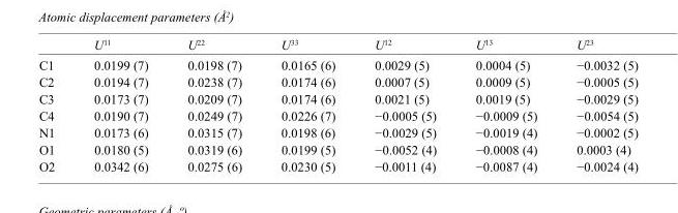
<table><thead><tr><td></td><td>U<sup>11</sup></td><td>U<sup>22</sup></td><td>U<sup>33</sup></td><td>U<sup>12</sup></td><td>U<sup>13</sup></td><td>U<sup>23</sup></td></tr></thead><tbody><tr><td>C1</td><td>0.0199 (7)</td><td>0.0198 (7)</td><td>0.0165 (6)</td><td>0.0029 (5)</td><td>0.0004 (5)</td><td>−0.0032 (5)</td></tr><tr><td>C2</td><td>0.0194 (7)</td><td>0.0238 (7)</td><td>0.0174 (6)</td><td>0.0007 (5)</td><td>0.0009 (5)</td><td>−0.0005 (5)</td></tr><tr><td>C3</td><td>0.0173 (7)</td><td>0.0209 (7)</td><td>0.0174 (6)</td><td>0.0021 (5)</td><td>0.0019 (5)</td><td>−0.0029 (5)</td></tr><tr><td>C4</td><td>0.0190 (7)</td><td>0.0249 (7)</td><td>0.0226 (7)</td><td>−0.0005 (5)</td><td>−0.0009 (5)</td><td>−0.0054 (5)</td></tr><tr><td>N1</td><td>0.0173 (6)</td><td>0.0315 (7)</td><td>0.0198 (6)</td><td>−0.0029 (5)</td><td>−0.0019 (4)</td><td>−0.0002 (5)</td></tr><tr><td>O1</td><td>0.0180 (5)</td><td>0.0319 (6)</td><td>0.0199 (5)</td><td>−0.0052 (4)</td><td>−0.0008 (4)</td><td>0.0003 (4)</td></tr><tr><td>O2</td><td>0.0342 (6)</td><td>0.0275 (6)</td><td>0.0230 (5)</td><td>−0.0011 (4)</td><td>−0.0087 (4)</td><td>−0.0024 (4)</td></tr></tbody></table>